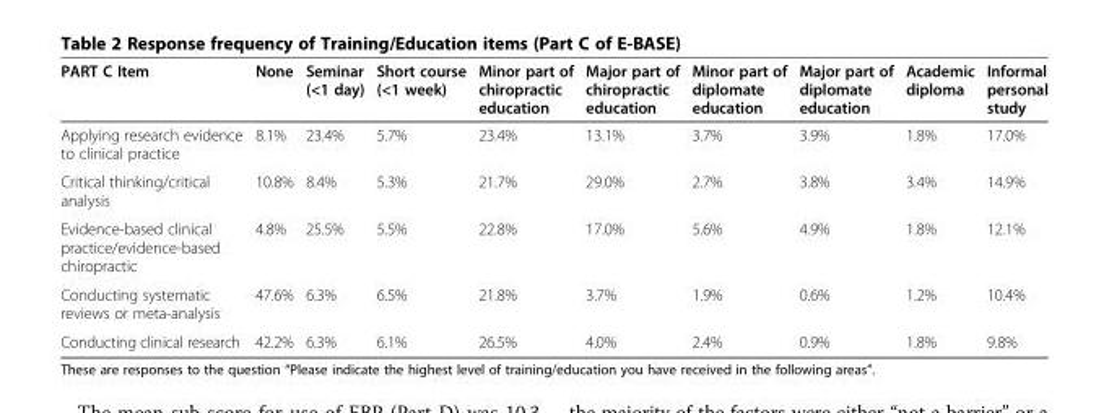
<table><thead><tr><td>PART C Item</td><td>None</td><td>Seminar (&lt;1 day)</td><td>Short course (&lt;1 week)</td><td>Minor part of chiropractic education</td><td>Major part of chiropractic education</td><td>Minor part of diplomate education</td><td>Major part of diplomate education</td><td>Academic diploma</td><td>Informal personal study</td></tr></thead><tbody><tr><td>Applying research evidence to clinical practice</td><td>8.1%</td><td>23.4%</td><td>5.7%</td><td>23.4%</td><td>13.1%</td><td>3.7%</td><td>3.9%</td><td>1.8%</td><td>17.0%</td></tr><tr><td>Critical thinking/critical analysis</td><td>10.8%</td><td>8.4%</td><td>5.3%</td><td>21.7%</td><td>29.0%</td><td>2.7%</td><td>3.8%</td><td>3.4%</td><td>14.9%</td></tr><tr><td>Evidence-based clinical practice/evidence-based chiropractic</td><td>4.8%</td><td>25.5%</td><td>5.5%</td><td>22.8%</td><td>17.0%</td><td>5.6%</td><td>4.9%</td><td>1.8%</td><td>12.1%</td></tr><tr><td>Conducting systematic reviews or meta-analysis</td><td>47.6%</td><td>6.3%</td><td>6.5%</td><td>21.8%</td><td>3.7%</td><td>1.9%</td><td>0.6%</td><td>1.2%</td><td>10.4%</td></tr><tr><td>Conducting clinical research</td><td>42.2%</td><td>6.3%</td><td>6.1%</td><td>26.5%</td><td>4.0%</td><td>2.4%</td><td>0.9%</td><td>1.8%</td><td>9.8%</td></tr></tbody></table>